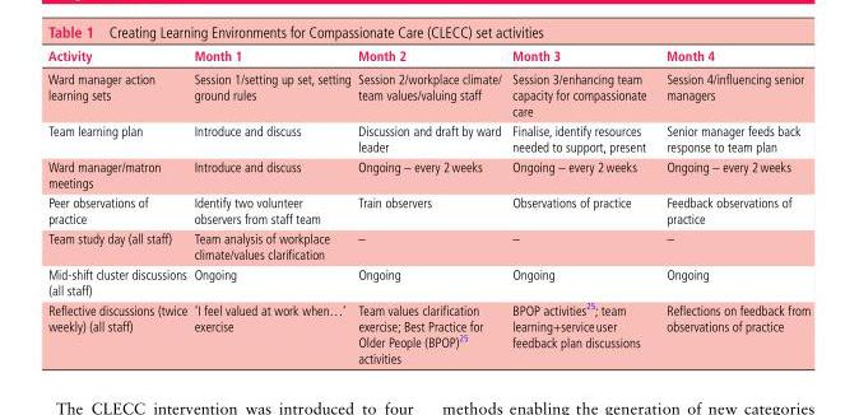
<table><thead><tr><td>Activity</td><td>Month 1</td><td>Month 2</td><td>Month 3</td><td>Month 4</td></tr></thead><tbody><tr><td>Ward manager action learning sets</td><td>Session 1/setting up set, setting ground rules</td><td>Session 2/workplace climate/ team values/valuing staff</td><td>Session 3/enhancing team capacity for compassionate care</td><td>Session 4/influencing senior managers</td></tr><tr><td>Team learning plan</td><td>Introduce and discuss</td><td>Discussion and draft by ward leader</td><td>Finalise, identify resources needed to support, present</td><td>Senior manager feeds back response to team plan</td></tr><tr><td>Ward manager/matron meetings</td><td>Introduce and discuss</td><td>Ongoing – every 2 weeks</td><td>Ongoing – every 2 weeks</td><td>Ongoing – every 2 weeks</td></tr><tr><td>Peer observations of practice</td><td>Identify two volunteer observers from staff team</td><td>Train observers</td><td>Observations of practice</td><td>Feedback observations of practice</td></tr><tr><td>Team study day (all staff)</td><td>Team analysis of workplace climate/values clarification</td><td>–</td><td>–</td><td>–</td></tr><tr><td>Mid-shift cluster discussions (all staff)</td><td>Ongoing</td><td>Ongoing</td><td>Ongoing</td><td>Ongoing</td></tr><tr><td>Reflective discussions (twice weekly) (all staff)</td><td>‘I feel valued at work when…’ exercise</td><td>Team values clarification exercise; Best Practice for Older People (BPOP)<sup>25</sup> activities</td><td>BPOP activities<sup>25</sup>; team learning+service user feedback plan discussions</td><td>Reflections on feedback from observations of practice</td></tr></tbody></table>